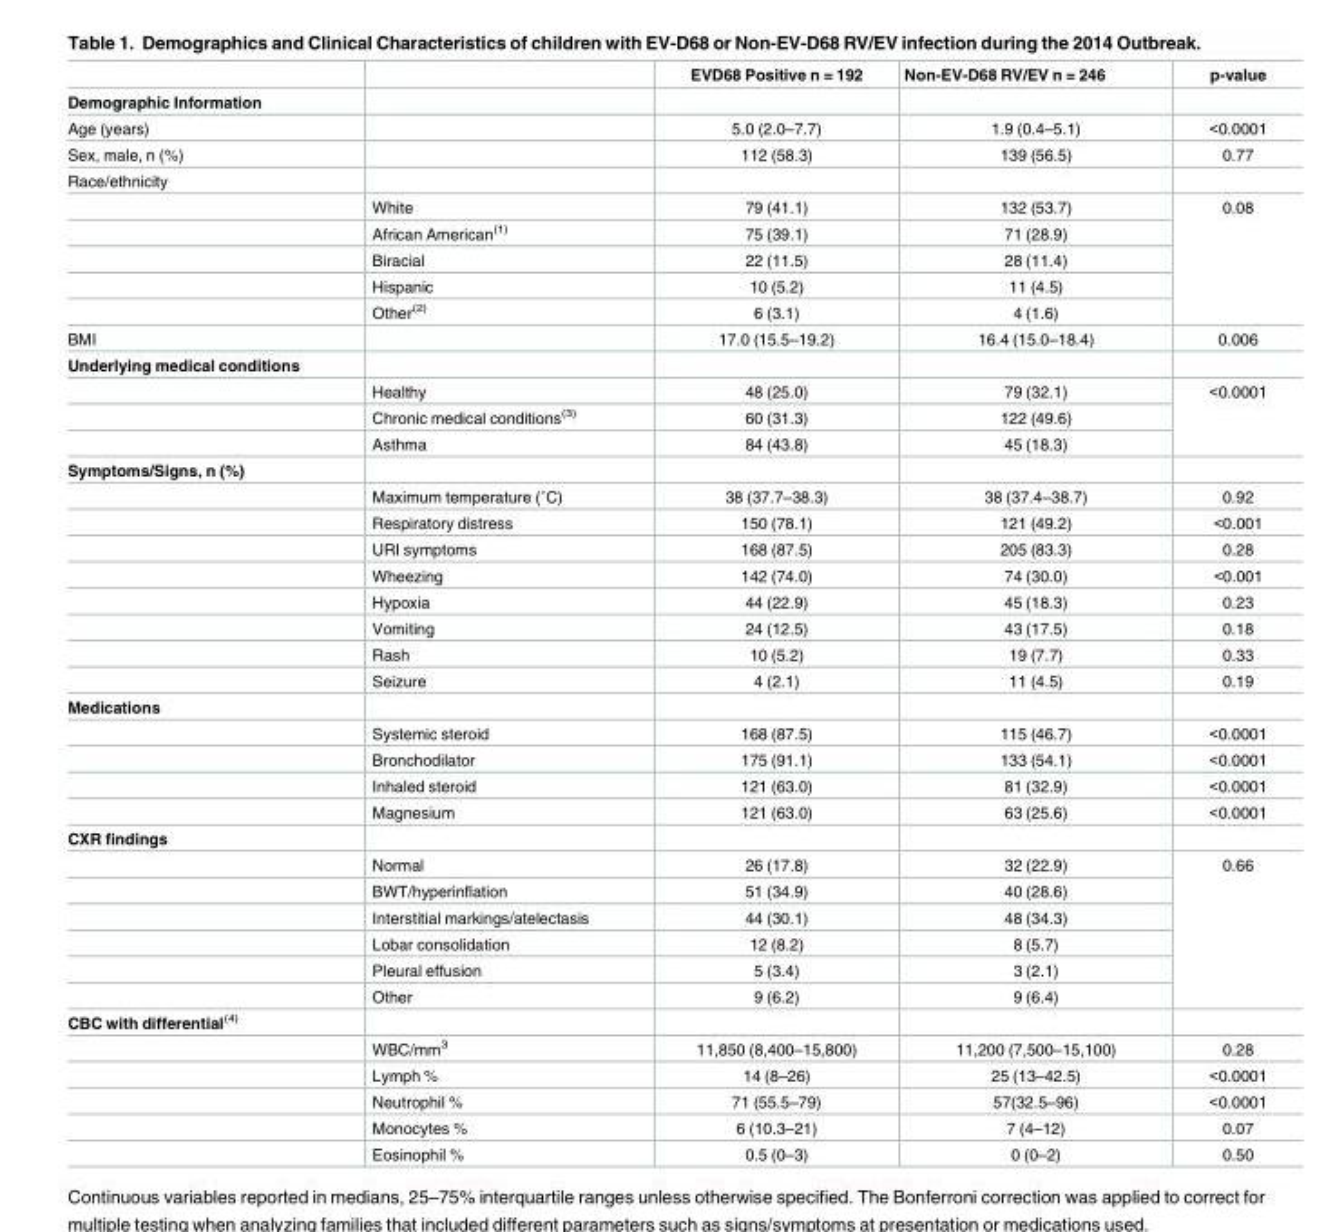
<table><thead><tr><td></td><td></td><td>EVD68 Positive n = 192</td><td>Non-EV-D68 RV/EV n = 246</td><td>p-value</td></tr></thead><tbody><tr><td colspan="5">Demographic Information</td></tr><tr><td>Age (years)</td><td></td><td>5.0 (2.0–7.7)</td><td>1.9 (0.4–5.1)</td><td>&lt;0.0001</td></tr><tr><td>Sex, male, n (%)</td><td></td><td>112 (58.3)</td><td>139 (56.5)</td><td>0.77</td></tr><tr><td colspan="5">Race/ethnicity</td></tr><tr><td></td><td>White</td><td>79 (41.1)</td><td>132 (53.7)</td><td rowspan="5">0.08</td></tr><tr><td></td><td>African American<sup>(1)</sup></td><td>75 (39.1)</td><td>71 (28.9)</td></tr><tr><td></td><td>Biracial</td><td>22 (11.5)</td><td>28 (11.4)</td></tr><tr><td></td><td>Hispanic</td><td>10 (5.2)</td><td>11 (4.5)</td></tr><tr><td></td><td>Other<sup>(2)</sup></td><td>6 (3.1)</td><td>4 (1.6)</td></tr><tr><td>BMI</td><td></td><td>17.0 (15.5–19.2)</td><td>16.4 (15.0–18.4)</td><td>0.006</td></tr><tr><td colspan="5">Underlying medical conditions</td></tr><tr><td></td><td>Healthy</td><td>48 (25.0)</td><td>79 (32.1)</td><td rowspan="3">&lt;0.0001</td></tr><tr><td></td><td>Chronic medical conditions<sup>(3)</sup></td><td>60 (31.3)</td><td>122 (49.6)</td></tr><tr><td></td><td>Asthma</td><td>84 (43.8)</td><td>45 (18.3)</td></tr><tr><td colspan="5">Symptoms/Signs, n (%)</td></tr><tr><td></td><td>Maximum temperature (˚C)</td><td>38 (37.7–38.3)</td><td>38 (37.4–38.7)</td><td>0.92</td></tr><tr><td></td><td>Respiratory distress</td><td>150 (78.1)</td><td>121 (49.2)</td><td>&lt;0.001</td></tr><tr><td></td><td>URI symptoms</td><td>168 (87.5)</td><td>205 (83.3)</td><td>0.28</td></tr><tr><td></td><td>Wheezing</td><td>142 (74.0)</td><td>74 (30.0)</td><td>&lt;0.001</td></tr><tr><td></td><td>Hypoxia</td><td>44 (22.9)</td><td>45 (18.3)</td><td>0.23</td></tr><tr><td></td><td>Vomiting</td><td>24 (12.5)</td><td>43 (17.5)</td><td>0.18</td></tr><tr><td></td><td>Rash</td><td>10 (5.2)</td><td>19 (7.7)</td><td>0.33</td></tr><tr><td></td><td>Seizure</td><td>4 (2.1)</td><td>11 (4.5)</td><td>0.19</td></tr><tr><td colspan="5">Medications</td></tr><tr><td></td><td>Systemic steroid</td><td>168 (87.5)</td><td>115 (46.7)</td><td>&lt;0.0001</td></tr><tr><td></td><td>Bronchodilator</td><td>175 (91.1)</td><td>133 (54.1)</td><td>&lt;0.0001</td></tr><tr><td></td><td>Inhaled steroid</td><td>121 (63.0)</td><td>81 (32.9)</td><td>&lt;0.0001</td></tr><tr><td></td><td>Magnesium</td><td>121 (63.0)</td><td>63 (25.6)</td><td>&lt;0.0001</td></tr><tr><td colspan="5">CXR findings</td></tr><tr><td></td><td>Normal</td><td>26 (17.8)</td><td>32 (22.9)</td><td rowspan="6">0.66</td></tr><tr><td></td><td>BWT/hyperinflation</td><td>51 (34.9)</td><td>40 (28.6)</td></tr><tr><td></td><td>Interstitial markings/atelectasis</td><td>44 (30.1)</td><td>48 (34.3)</td></tr><tr><td></td><td>Lobar consolidation</td><td>12 (8.2)</td><td>8 (5.7)</td></tr><tr><td></td><td>Pleural effusion</td><td>5 (3.4)</td><td>3 (2.1)</td></tr><tr><td></td><td>Other</td><td>9 (6.2)</td><td>9 (6.4)</td></tr><tr><td colspan="5">CBC with differential<sup>(4)</sup></td></tr><tr><td></td><td>WBC/mm<sup>3</sup></td><td>11,850 (8,400–15,800)</td><td>11,200 (7,500–15,100)</td><td>0.28</td></tr><tr><td></td><td>Lymph %</td><td>14 (8–26)</td><td>25 (13–42.5)</td><td>&lt;0.0001</td></tr><tr><td></td><td>Neutrophil %</td><td>71 (55.5–79)</td><td>57(32.5–96)</td><td>&lt;0.0001</td></tr><tr><td></td><td>Monocytes %</td><td>6 (10.3–21)</td><td>7 (4–12)</td><td>0.07</td></tr><tr><td></td><td>Eosinophil %</td><td>0.5 (0–3)</td><td>0 (0–2)</td><td>0.50</td></tr></tbody></table>